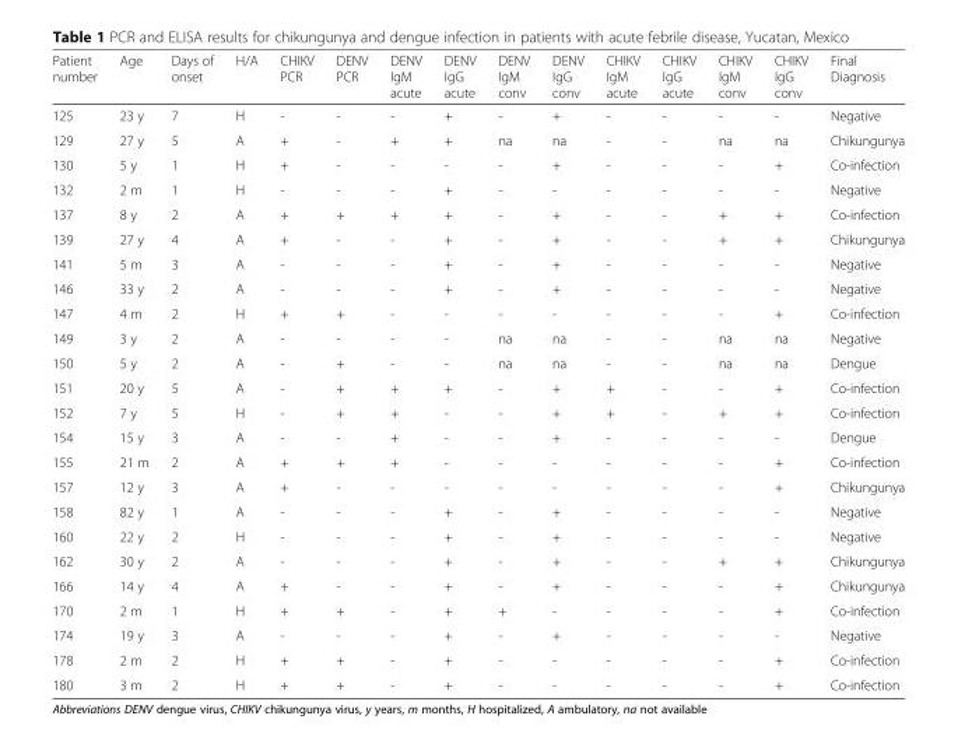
<table><thead><tr><td>Patient number</td><td>Age</td><td>Days of onset</td><td>H/A</td><td>CHIKV PCR</td><td>DENV PCR</td><td>DENV IgM acute</td><td>DENV IgG acute</td><td>DENV IgM conv</td><td>DENV IgG conv</td><td>CHIKV IgM acute</td><td>CHIKV IgG acute</td><td>CHIKV IgM conv</td><td>CHIKV IgG conv</td><td>Final Diagnosis</td></tr></thead><tbody><tr><td>125</td><td>23 y</td><td>7</td><td>H</td><td>-</td><td>-</td><td>-</td><td>+</td><td>-</td><td>+</td><td>-</td><td>-</td><td>-</td><td>-</td><td>Negative</td></tr><tr><td>129</td><td>27 y</td><td>5</td><td>A</td><td>+</td><td>-</td><td>+</td><td>+</td><td>na</td><td>na</td><td>-</td><td>-</td><td>na</td><td>na</td><td>Chikungunya</td></tr><tr><td>130</td><td>5 y</td><td>1</td><td>H</td><td>+</td><td>-</td><td>-</td><td>-</td><td>-</td><td>+</td><td>-</td><td>-</td><td>-</td><td>+</td><td>Co-infection</td></tr><tr><td>132</td><td>2 m</td><td>1</td><td>H</td><td>-</td><td>-</td><td>-</td><td>+</td><td>-</td><td>-</td><td>-</td><td>-</td><td>-</td><td>-</td><td>Negative</td></tr><tr><td>137</td><td>8 y</td><td>2</td><td>A</td><td>+</td><td>+</td><td>+</td><td>+</td><td>-</td><td>+</td><td>-</td><td>-</td><td>+</td><td>+</td><td>Co-infection</td></tr><tr><td>139</td><td>27 y</td><td>4</td><td>A</td><td>+</td><td>-</td><td>-</td><td>+</td><td>-</td><td>+</td><td>-</td><td>-</td><td>+</td><td>+</td><td>Chikungunya</td></tr><tr><td>141</td><td>5 m</td><td>3</td><td>A</td><td>-</td><td>-</td><td>-</td><td>+</td><td>-</td><td>+</td><td>-</td><td>-</td><td>-</td><td>-</td><td>Negative</td></tr><tr><td>146</td><td>33 y</td><td>2</td><td>A</td><td>-</td><td>-</td><td>-</td><td>+</td><td>-</td><td>+</td><td>-</td><td>-</td><td>-</td><td>-</td><td>Negative</td></tr><tr><td>147</td><td>4 m</td><td>2</td><td>H</td><td>+</td><td>+</td><td>-</td><td>-</td><td>-</td><td>-</td><td>-</td><td>-</td><td>-</td><td>+</td><td>Co-infection</td></tr><tr><td>149</td><td>3 y</td><td>2</td><td>A</td><td>-</td><td>-</td><td>-</td><td>-</td><td>na</td><td>na</td><td>-</td><td>-</td><td>na</td><td>na</td><td>Negative</td></tr><tr><td>150</td><td>5 y</td><td>2</td><td>A</td><td>-</td><td>+</td><td>-</td><td>-</td><td>na</td><td>na</td><td>-</td><td>-</td><td>na</td><td>na</td><td>Dengue</td></tr><tr><td>151</td><td>20 y</td><td>5</td><td>A</td><td>-</td><td>+</td><td>+</td><td>+</td><td>-</td><td>+</td><td>+</td><td>-</td><td>-</td><td>+</td><td>Co-infection</td></tr><tr><td>152</td><td>7 y</td><td>5</td><td>H</td><td>-</td><td>+</td><td>+</td><td>-</td><td>-</td><td>+</td><td>+</td><td>-</td><td>+</td><td>+</td><td>Co-infection</td></tr><tr><td>154</td><td>15 y</td><td>3</td><td>A</td><td>-</td><td>-</td><td>+</td><td>-</td><td>-</td><td>+</td><td>-</td><td>-</td><td>-</td><td>-</td><td>Dengue</td></tr><tr><td>155</td><td>21 m</td><td>2</td><td>A</td><td>+</td><td>+</td><td>+</td><td>-</td><td>-</td><td>-</td><td>-</td><td>-</td><td>-</td><td>+</td><td>Co-infection</td></tr><tr><td>157</td><td>12 y</td><td>3</td><td>A</td><td>+</td><td>-</td><td>-</td><td>-</td><td>-</td><td>-</td><td>-</td><td>-</td><td>-</td><td>+</td><td>Chikungunya</td></tr><tr><td>158</td><td>82 y</td><td>1</td><td>A</td><td>-</td><td>-</td><td>-</td><td>+</td><td>-</td><td>+</td><td>-</td><td>-</td><td>-</td><td>-</td><td>Negative</td></tr><tr><td>160</td><td>22 y</td><td>2</td><td>H</td><td>-</td><td>-</td><td>-</td><td>+</td><td>-</td><td>+</td><td>-</td><td>-</td><td>-</td><td>-</td><td>Negative</td></tr><tr><td>162</td><td>30 y</td><td>2</td><td>A</td><td>-</td><td>-</td><td>-</td><td>+</td><td>-</td><td>+</td><td>-</td><td>-</td><td>+</td><td>+</td><td>Chikungunya</td></tr><tr><td>166</td><td>14 y</td><td>4</td><td>A</td><td>+</td><td>-</td><td>-</td><td>+</td><td>-</td><td>+</td><td>-</td><td>-</td><td>-</td><td>+</td><td>Chikungunya</td></tr><tr><td>170</td><td>2 m</td><td>1</td><td>H</td><td>+</td><td>+</td><td>-</td><td>+</td><td>+</td><td>-</td><td>-</td><td>-</td><td>-</td><td>+</td><td>Co-infection</td></tr><tr><td>174</td><td>19 y</td><td>3</td><td>A</td><td>-</td><td>-</td><td>-</td><td>+</td><td>-</td><td>+</td><td>-</td><td>-</td><td>-</td><td>-</td><td>Negative</td></tr><tr><td>178</td><td>2 m</td><td>2</td><td>H</td><td>+</td><td>+</td><td>-</td><td>+</td><td>-</td><td>-</td><td>-</td><td>-</td><td>-</td><td>+</td><td>Co-infection</td></tr><tr><td>180</td><td>3 m</td><td>2</td><td>H</td><td>+</td><td>+</td><td>-</td><td>+</td><td>-</td><td>-</td><td>-</td><td>-</td><td>-</td><td>+</td><td>Co-infection</td></tr></tbody></table>